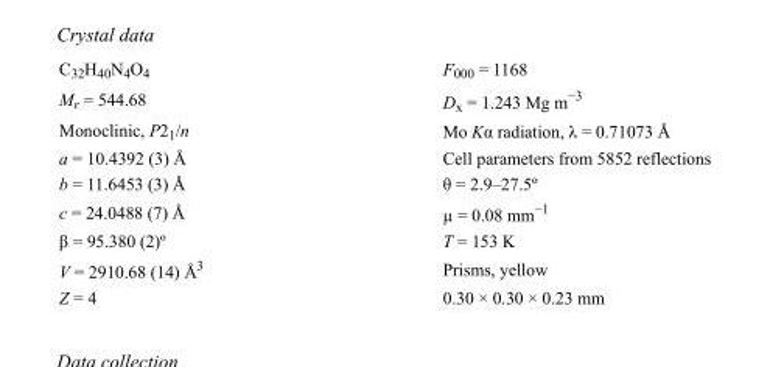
<table><tbody><tr><td>C<sub>32</sub>H<sub>40</sub>N<sub>4</sub>O<sub>4</sub></td><td>F000 = 1168</td></tr><tr><td>M<sub>r</sub> = 544.68</td><td>D<sub>x</sub> = 1.243 Mg m<sup>−3</sup></td></tr><tr><td>Monoclinic, P2<sub>1</sub>/n</td><td>Mo Kα radiation, λ = 0.71073 Å</td></tr><tr><td>a = 10.4392 (3) Å</td><td>Cell parameters from 5852 reflections</td></tr><tr><td>b = 11.6453 (3) Å</td><td>θ = 2.9–27.5º</td></tr><tr><td>c = 24.0488 (7) Å</td><td>µ = 0.08 mm<sup>−1</sup></td></tr><tr><td>β = 95.380 (2)º</td><td>T = 153 K</td></tr><tr><td>V = 2910.68 (14) Å<sup>3</sup></td><td>Prisms, yellow</td></tr><tr><td>Z = 4</td><td>0.30 × 0.30 × 0.23 mm</td></tr></tbody></table>